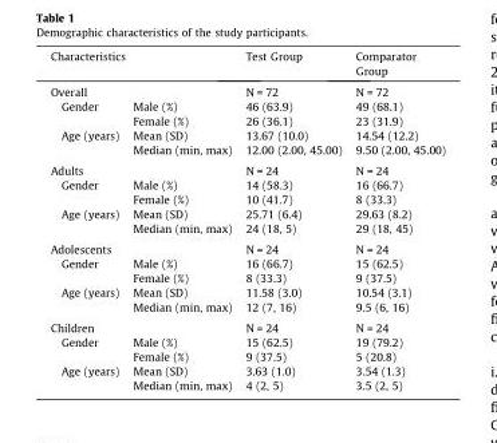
<table><thead><tr><td colspan="2">Characteristics</td><td rowspan="2">Test Group N = 72</td><td rowspan="2">Comparator Group N = 72</td></tr><tr><td>Overall</td><td></td></tr></thead><tbody><tr><td rowspan="2">Gender</td><td>Male (%)</td><td>46 (63.9)</td><td>49 (68.1)</td></tr><tr><td>Female (%)</td><td>26 (36.1)</td><td>23 (31.9)</td></tr><tr><td rowspan="2">Age (years)</td><td>Mean (SD)</td><td>13.67 (10.0)</td><td>14.54 (12.2)</td></tr><tr><td>Median (min, max)</td><td>12.00 (2.00, 45.00)</td><td>9.50 (2.00, 45.00)</td></tr><tr><td colspan="2">Adults</td><td>N = 24</td><td>N = 24</td></tr><tr><td rowspan="2">Gender</td><td>Male (%)</td><td>14 (58.3)</td><td>16 (66.7)</td></tr><tr><td>Female (%)</td><td>10 (41.7)</td><td>8 (33.3)</td></tr><tr><td rowspan="2">Age (years)</td><td>Mean (SD)</td><td>25.71 (6.4)</td><td>29.63 (8.2)</td></tr><tr><td>Median (min, max)</td><td>24 (18, 5)</td><td>29 (18, 45)</td></tr><tr><td colspan="2">Adolescents</td><td>N = 24</td><td>N = 24</td></tr><tr><td rowspan="2">Gender</td><td>Male (%)</td><td>16 (66.7)</td><td>15 (62.5)</td></tr><tr><td>Female (%)</td><td>8 (33.3)</td><td>9 (37.5)</td></tr><tr><td rowspan="2">Age (years)</td><td>Mean (SD)</td><td>11.58 (3.0)</td><td>10.54 (3.1)</td></tr><tr><td>Median (min, max)</td><td>12 (7, 16)</td><td>9.5 (6, 16)</td></tr><tr><td colspan="2">Children</td><td>N = 24</td><td>N = 24</td></tr><tr><td rowspan="2">Gender</td><td>Male (%)</td><td>15 (62.5)</td><td>19 (79.2)</td></tr><tr><td>Female (%)</td><td>9 (37.5)</td><td>5 (20.8)</td></tr><tr><td rowspan="2">Age (years)</td><td>Mean (SD)</td><td>3.63 (1.0)</td><td>3.54 (1.3)</td></tr><tr><td>Median (min, max)</td><td>4 (2, 5)</td><td>3.5 (2, 5)</td></tr></tbody></table>